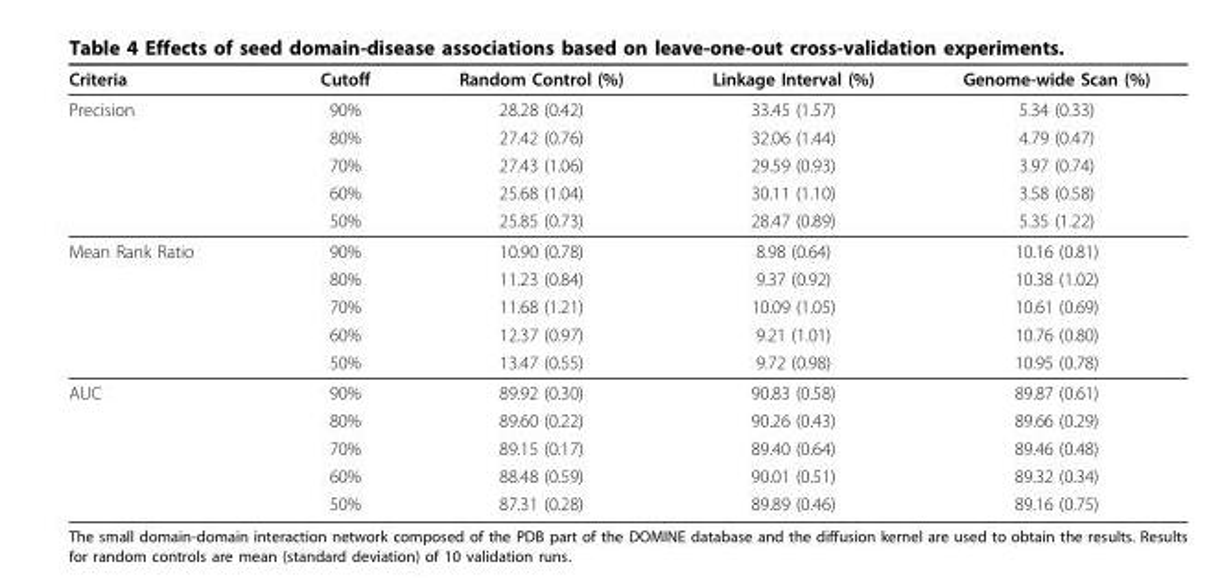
<table><thead><tr><td>Criteria</td><td>Cutoff</td><td>Random Control (%)</td><td>Linkage Interval (%)</td><td>Genome-wide Scan (%)</td></tr></thead><tbody><tr><td rowspan="5">Precision</td><td>90%</td><td>28.28 (0.42)</td><td>33.45 (1.57)</td><td>5.34 (0.33)</td></tr><tr><td>80%</td><td>27.42 (0.76)</td><td>32.06 (1.44)</td><td>4.79 (0.47)</td></tr><tr><td>70%</td><td>27.43 (1.06)</td><td>29.59 (0.93)</td><td>3.97 (0.74)</td></tr><tr><td>60%</td><td>25.68 (1.04)</td><td>30.11 (1.10)</td><td>3.58 (0.58)</td></tr><tr><td>50%</td><td>25.85 (0.73)</td><td>28.47 (0.89)</td><td>5.35 (1.22)</td></tr><tr><td rowspan="5">Mean Rank Ratio</td><td>90%</td><td>10.90 (0.78)</td><td>8.98 (0.64)</td><td>10.16 (0.81)</td></tr><tr><td>80%</td><td>11.23 (0.84)</td><td>9.37 (0.92)</td><td>10.38 (1.02)</td></tr><tr><td>70%</td><td>11.68 (1.21)</td><td>10.09 (1.05)</td><td>10.61 (0.69)</td></tr><tr><td>60%</td><td>12.37 (0.97)</td><td>9.21 (1.01)</td><td>10.76 (0.80)</td></tr><tr><td>50%</td><td>13.47 (0.55)</td><td>9.72 (0.98)</td><td>10.95 (0.78)</td></tr><tr><td rowspan="5">AUC</td><td>90%</td><td>89.92 (0.30)</td><td>90.83 (0.58)</td><td>89.87 (0.61)</td></tr><tr><td>80%</td><td>89.60 (0.22)</td><td>90.26 (0.43)</td><td>89.66 (0.29)</td></tr><tr><td>70%</td><td>89.15 (0.17)</td><td>89.40 (0.64)</td><td>89.46 (0.48)</td></tr><tr><td>60%</td><td>88.48 (0.59)</td><td>90.01 (0.51)</td><td>89.32 (0.34)</td></tr><tr><td>50%</td><td>87.31 (0.28)</td><td>89.89 (0.46)</td><td>89.16 (0.75)</td></tr></tbody></table>